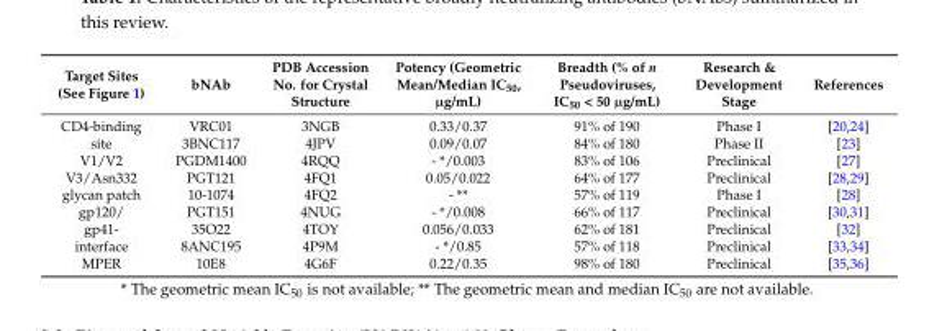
<table><thead><tr><td>Target Sites (See Figure 1)</td><td>bNAb</td><td>PDB Accession No. for Crystal Structure</td><td>Potency (Geometric Mean/Median IC<sub>50</sub>, µg/mL)</td><td>Breadth (% of n Pseudoviruses, IC<sub>50</sub> &lt; 50 µg/mL)</td><td>Research &amp; Development Stage</td><td>References</td></tr></thead><tbody><tr><td>CD4-binding</td><td>VRC01</td><td>3NGB</td><td>0.33/0.37</td><td>91% of 190</td><td>Phase I</td><td>[20,24]</td></tr><tr><td>site</td><td>3BNC117</td><td>4JPV</td><td>0.09/0.07</td><td>84% of 180</td><td>Phase II</td><td>[23]</td></tr><tr><td>V1/V2</td><td>PGDM1400</td><td>4RQQ</td><td>- */0.003</td><td>83% of 106</td><td>Preclinical</td><td>[27]</td></tr><tr><td>V3/Asn332</td><td>PGT121</td><td>4FQ1</td><td>0.05/0.022</td><td>64% of 177</td><td>Preclinical</td><td>[28,29]</td></tr><tr><td>glycan patch</td><td>10-1074</td><td>4FQ2</td><td>- **</td><td>57% of 119</td><td>Phase I</td><td>[28]</td></tr><tr><td>gp120/</td><td>PGT151</td><td>4NUG</td><td>- */0.008</td><td>66% of 117</td><td>Preclinical</td><td>[30,31]</td></tr><tr><td>gp41-</td><td>35O22</td><td>4TOY</td><td>0.056/0.033</td><td>62% of 181</td><td>Preclinical</td><td>[32]</td></tr><tr><td>interface</td><td>8ANC195</td><td>4P9M</td><td>- */0.85</td><td>57% of 118</td><td>Preclinical</td><td>[33,34]</td></tr><tr><td>MPER</td><td>10E8</td><td>4G6F</td><td>0.22/0.35</td><td>98% of 180</td><td>Preclinical</td><td>[35,36]</td></tr></tbody></table>